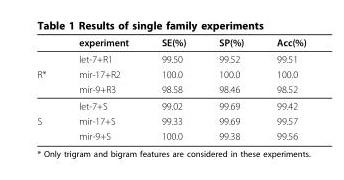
<table><thead><tr><td></td><td>experiment</td><td>SE(%)</td><td>SP(%)</td><td>Acc(%)</td></tr></thead><tbody><tr><td></td><td>let-7+R1</td><td>99.50</td><td>99.52</td><td>99.51</td></tr><tr><td rowspan="3">R*</td><td>mir-17+R2</td><td>100.0</td><td>100.0</td><td>100.0</td></tr><tr><td>mir-9+R3</td><td>98.58</td><td>98.46</td><td>98.52</td></tr><tr><td>let-7+S</td><td>99.02</td><td>99.69</td><td>99.42</td></tr><tr><td rowspan="2">S</td><td>mir-17+S</td><td>99.33</td><td>99.69</td><td>99.57</td></tr><tr><td>mir-9+S</td><td>100.0</td><td>99.38</td><td>99.56</td></tr></tbody></table>